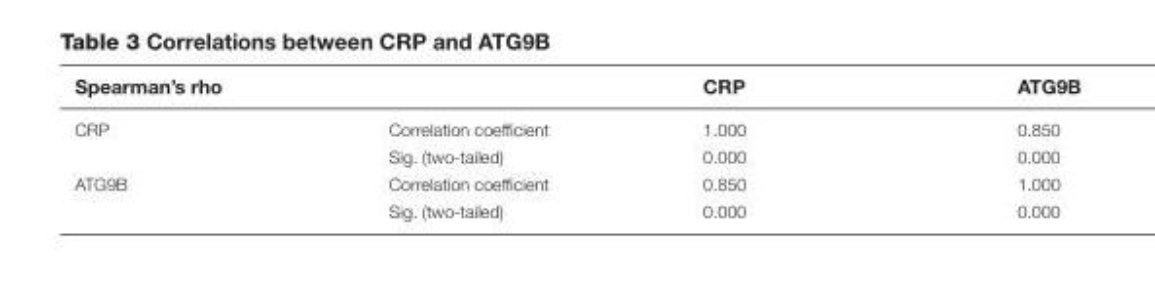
<table><thead><tr><td>Spearman’s rho</td><td></td><td>CRP</td><td>ATG9B</td></tr></thead><tbody><tr><td rowspan="2">CRP</td><td>Correlation coefficient</td><td>1.000</td><td>0.850</td></tr><tr><td>Sig. (two-tailed)</td><td>0.000</td><td>0.000</td></tr><tr><td rowspan="2">ATG9B</td><td>Correlation coefficient</td><td>0.850</td><td>1.000</td></tr><tr><td>Sig. (two-tailed)</td><td>0.000</td><td>0.000</td></tr></tbody></table>